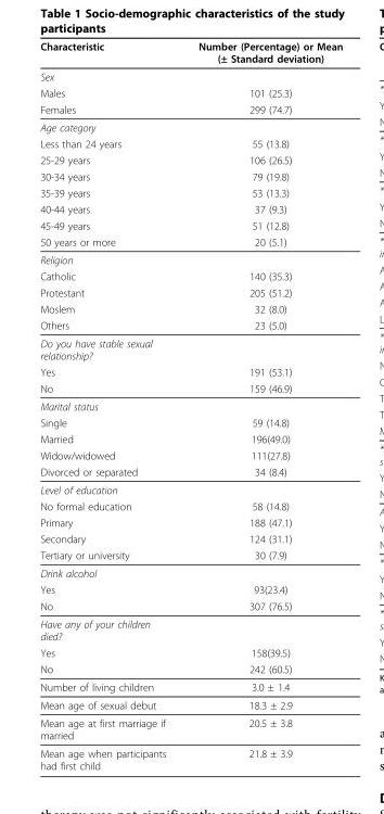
<table><thead><tr><td>Characteristic</td><td>Number (Percentage) or Mean (± Standard deviation)</td></tr></thead><tbody><tr><td colspan="2">Sex</td></tr><tr><td>Males</td><td>101 (25.3)</td></tr><tr><td>Females</td><td>299 (74.7)</td></tr><tr><td colspan="2">Age category</td></tr><tr><td>Less than 24 years</td><td>55 (13.8)</td></tr><tr><td>25-29 years</td><td>106 (26.5)</td></tr><tr><td>30-34 years</td><td>79 (19.8)</td></tr><tr><td>35-39 years</td><td>53 (13.3)</td></tr><tr><td>40-44 years</td><td>37 (9.3)</td></tr><tr><td>45-49 years</td><td>51 (12.8)</td></tr><tr><td>50 years or more</td><td>20 (5.1)</td></tr><tr><td colspan="2">Religion</td></tr><tr><td>Catholic</td><td>140 (35.3)</td></tr><tr><td>Protestant</td><td>205 (51.2)</td></tr><tr><td>Moslem</td><td>32 (8.0)</td></tr><tr><td>Others</td><td>23 (5.0)</td></tr><tr><td colspan="2">Do you have stable sexual relationship?</td></tr><tr><td>Yes</td><td>191 (53.1)</td></tr><tr><td>No</td><td>159 (46.9)</td></tr><tr><td colspan="2">Marital status</td></tr><tr><td>Single</td><td>59 (14.8)</td></tr><tr><td>Married</td><td>196(49.0)</td></tr><tr><td>Widow/widowed</td><td>111(27.8)</td></tr><tr><td>Divorced or separated</td><td>34 (8.4)</td></tr><tr><td colspan="2">Level of education</td></tr><tr><td>No formal education</td><td>58 (14.8)</td></tr><tr><td>Primary</td><td>188 (47.1)</td></tr><tr><td>Secondary</td><td>124 (31.1)</td></tr><tr><td>Tertiary or university</td><td>30 (7.9)</td></tr><tr><td colspan="2">Drink alcohol</td></tr><tr><td>Yes</td><td>93(23.4)</td></tr><tr><td>No</td><td>307 (76.5)</td></tr><tr><td colspan="2">Have any of your children died?</td></tr><tr><td>Yes</td><td>158(39.5)</td></tr><tr><td>No</td><td>242 (60.5)</td></tr><tr><td>Number of living children</td><td>3.0 ± 1.4</td></tr><tr><td>Mean age of sexual debut</td><td>18.3 ± 2.9</td></tr><tr><td>Mean age at first marriage if married</td><td>20.5 ± 3.8</td></tr><tr><td>Mean age when participants had first child</td><td>21.8 ± 3.9</td></tr></tbody></table>